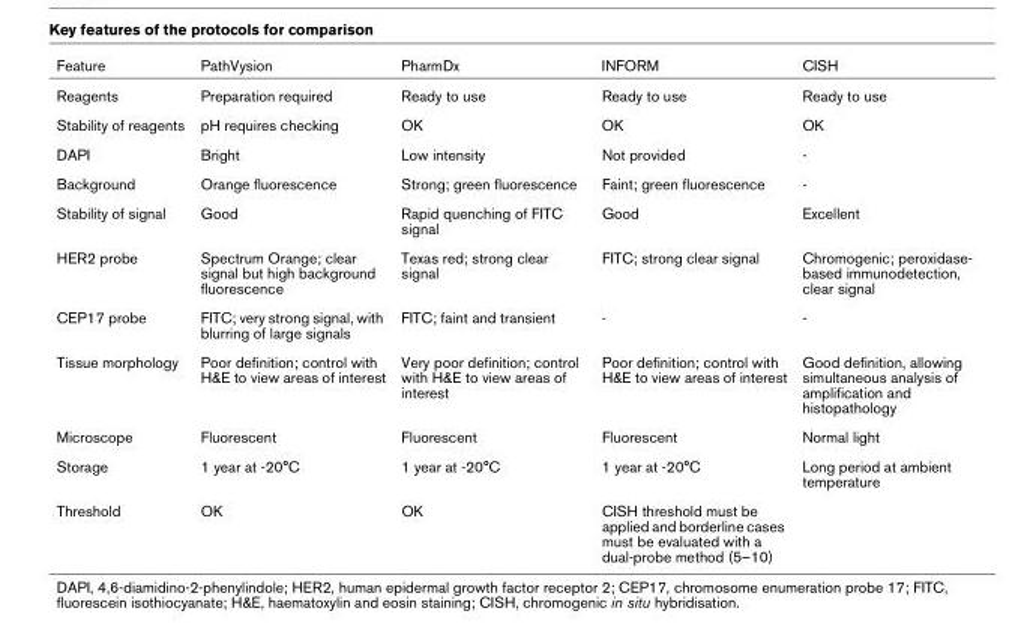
<table><thead><tr><td>Feature</td><td>PathVysion</td><td>PharmDx</td><td>INFORM</td><td>CISH</td></tr></thead><tbody><tr><td>Reagents</td><td>Preparation required</td><td>Ready to use</td><td>Ready to use</td><td>Ready to use</td></tr><tr><td>Stability of reagents</td><td>pH requires checking</td><td>OK</td><td>OK</td><td>OK</td></tr><tr><td>DAPI</td><td>Bright</td><td>Low intensity</td><td>Not provided</td><td>-</td></tr><tr><td>Background</td><td>Orange fluorescence</td><td>Strong; green fluorescence</td><td>Faint; green fluorescence</td><td>-</td></tr><tr><td>Stability of signal</td><td>Good</td><td>Rapid quenching of FITC signal</td><td>Good</td><td>Excellent</td></tr><tr><td>HER2 probe</td><td>Spectrum Orange; clear signal but high background fluorescence</td><td>Texas red; strong clear signal</td><td>FITC; strong clear signal</td><td>Chromogenic; peroxidase- based immunodetection, clear signal</td></tr><tr><td>CEP17 probe</td><td>FITC; very strong signal, with blurring of large signals</td><td>FITC; faint and transient</td><td>-</td><td>-</td></tr><tr><td>Tissue morphology</td><td>Poor definition; control with H&amp;E to view areas of interest</td><td>Very poor definition; control with H&amp;E to view areas of interest</td><td>Poor definition; control with H&amp;E to view areas of interest</td><td>Good definition, allowing simultaneous analysis of amplification and histopathology</td></tr><tr><td>Microscope</td><td>Fluorescent</td><td>Fluorescent</td><td>Fluorescent</td><td>Normal light</td></tr><tr><td>Storage</td><td>1 year at -20°C</td><td>1 year at -20°C</td><td>1 year at -20°C</td><td>Long period at ambient temperature</td></tr><tr><td>Threshold</td><td>OK</td><td>OK</td><td>CISH threshold must be applied and borderline cases must be evaluated with a dual-probe method (5–10)</td><td></td></tr></tbody></table>